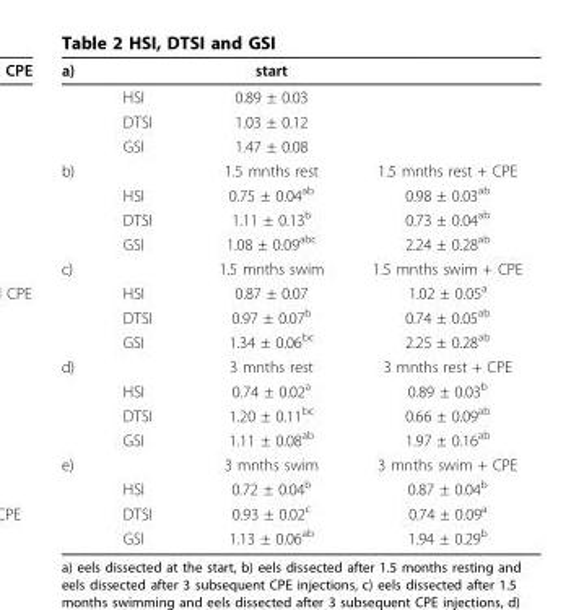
<table><thead><tr><td>a)</td><td></td><td>start</td><td></td></tr></thead><tbody><tr><td></td><td>HSI</td><td>0.89 ± 0.03</td><td></td></tr><tr><td></td><td>DTSI</td><td>1.03 ± 0.12</td><td></td></tr><tr><td></td><td>GSI</td><td>1.47 ± 0.08</td><td></td></tr><tr><td rowspan="4">b)</td><td></td><td>1.5 mnths rest</td><td>1.5 mnths rest + CPE</td></tr><tr><td>HSI</td><td>0.75 ± 0.04<sup>ab</sup></td><td>0.98 ± 0.03<sup>ab</sup></td></tr><tr><td>DTSI</td><td>1.11 ± 0.13<sup>b</sup></td><td>0.73 ± 0.04<sup>ab</sup></td></tr><tr><td>GSI</td><td>1.08 ± 0.09<sup>abc</sup></td><td>2.24 ± 0.28<sup>ab</sup></td></tr><tr><td rowspan="4">c)</td><td></td><td>1.5 mnths swim</td><td>1.5 mnths swim + CPE</td></tr><tr><td>HSI</td><td>0.87 ± 0.07</td><td>1.02 ± 0.05<sup>a</sup></td></tr><tr><td>DTSI</td><td>0.97 ± 0.07<sup>b</sup></td><td>0.74 ± 0.05<sup>ab</sup></td></tr><tr><td>GSI</td><td>1.34 ± 0.06<sup>bc</sup></td><td>2.25 ± 0.28<sup>ab</sup></td></tr><tr><td rowspan="4">d)</td><td></td><td>3 mnths rest</td><td>3 mnths rest + CPE</td></tr><tr><td>HSI</td><td>0.74 ± 0.02<sup>a</sup></td><td>0.89 ± 0.03<sup>b</sup></td></tr><tr><td>DTSI</td><td>1.20 ± 0.11<sup>bc</sup></td><td>0.66 ± 0.09<sup>ab</sup></td></tr><tr><td>GSI</td><td>1.11 ± 0.08<sup>ab</sup></td><td>1.97 ± 0.16<sup>ab</sup></td></tr><tr><td rowspan="4">e)</td><td></td><td>3 mnths swim</td><td>3 mnths swim + CPE</td></tr><tr><td>HSI</td><td>0.72 ± 0.04<sup>b</sup></td><td>0.87 ± 0.04<sup>b</sup></td></tr><tr><td>DTSI</td><td>0.93 ± 0.02<sup>c</sup></td><td>0.74 ± 0.09<sup>a</sup></td></tr><tr><td>GSI</td><td>1.13 ± 0.06<sup>ab</sup></td><td>1.94 ± 0.29<sup>b</sup></td></tr></tbody></table>